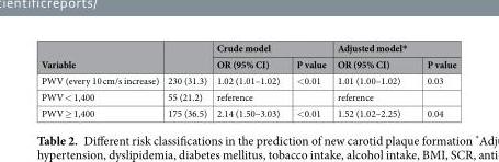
<table><thead><tr><td rowspan="2">Variable</td><td rowspan="2"></td><td colspan="2">Crude model</td><td colspan="2">Adjusted model*</td></tr><tr><td>OR (95% CI)</td><td>P value</td><td>OR (95% CI)</td><td>P value</td></tr></thead><tbody><tr><td>PWV (every 10 cm/s increase)</td><td>230 (31.3)</td><td>1.02 (1.01–1.02)</td><td>&lt;0.01</td><td>1.01 (1.00–1.02)</td><td>0.03</td></tr><tr><td>PWV &lt; 1,400</td><td>55 (21.2)</td><td>reference</td><td></td><td>reference</td><td></td></tr><tr><td>PWV ≥ 1,400</td><td>175 (36.5)</td><td>2.14 (1.50–3.03)</td><td>&lt;0.01</td><td>1.52 (1.02–2.25)</td><td>0.04</td></tr></tbody></table>